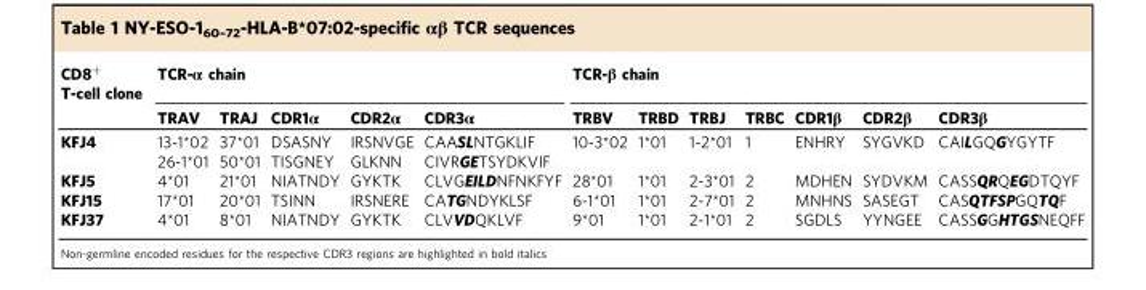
<table><thead><tr><td rowspan="2">CD8<sup>+</sup> T-cell clone</td><td colspan="5">TCR-α chain</td><td colspan="7">TCR-β chain</td></tr><tr><td>TRAV</td><td>TRAJ</td><td>CDR1α</td><td>CDR2α</td><td>CDR3α</td><td>TRBV</td><td>TRBD</td><td>TRBJ</td><td>TRBC</td><td>CDR1β</td><td>CDR2β</td><td>CDR3β</td></tr></thead><tbody><tr><td rowspan="2">KFJ4</td><td>13-1*02</td><td>37*01</td><td>DSASNY</td><td>IRSNVGE</td><td>CAASLNTGKLIF</td><td>10-3*02</td><td>1*01</td><td>1-2*01</td><td>1</td><td>ENHRY</td><td>SYGVKD</td><td>CAILGQGYGYTF</td></tr><tr><td>26-1*01</td><td>50*01</td><td>TISGNEY</td><td>GLKNN</td><td>CIVRGETSYDKVIF</td><td></td><td></td><td></td><td></td><td></td><td></td><td></td></tr><tr><td>KFJ5</td><td>4*01</td><td>21*01</td><td>NIATNDY</td><td>GYKTK</td><td>CLVGEILDNFNKFYF</td><td>28*01</td><td>1*01</td><td>2-3*01</td><td>2</td><td>MDHEN</td><td>SYDVKM</td><td>CASSQRQEGDTQYF</td></tr><tr><td>KFJ15</td><td>17*01</td><td>20*01</td><td>TSINN</td><td>IRSNERE</td><td>CATGNDYKLSF</td><td>6-1*01</td><td>1*01</td><td>2-7*01</td><td>2</td><td>MNHNS</td><td>SASEGT</td><td>CASQTFSPGQTQF</td></tr><tr><td>KFJ37</td><td>4*01</td><td>8*01</td><td>NIATNDY</td><td>GYKTK</td><td>CLVVDQKLVF</td><td>9*01</td><td>1*01</td><td>2-1*01</td><td>2</td><td>SGDLS</td><td>YYNGEE</td><td>CASSGGHTGSNEQFF</td></tr></tbody></table>